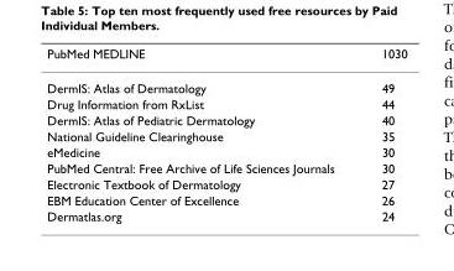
<table><thead><tr><td>PubMed MEDLINE</td><td>1030</td></tr></thead><tbody><tr><td>DermIS: Atlas of Dermatology</td><td>49</td></tr><tr><td>Drug Information from RxList</td><td>44</td></tr><tr><td>DermIS: Atlas of Pediatric Dermatology</td><td>40</td></tr><tr><td>National Guideline Clearinghouse</td><td>35</td></tr><tr><td>eMedicine</td><td>30</td></tr><tr><td>PubMed Central: Free Archive of Life Sciences Journals</td><td>30</td></tr><tr><td>Electronic Textbook of Dermatology</td><td>27</td></tr><tr><td>EBM Education Center of Excellence</td><td>26</td></tr><tr><td>Dermatlas.org</td><td>24</td></tr></tbody></table>